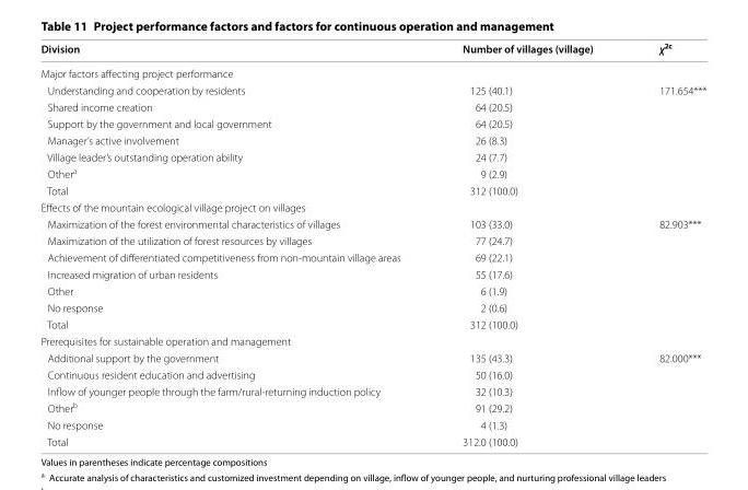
<table><thead><tr><td>Division</td><td>Number of villages (village)</td><td>χ<sup>2c</sup></td></tr></thead><tbody><tr><td colspan="3">Major factors affecting project performance</td></tr><tr><td>Understanding and cooperation by residents</td><td>125 (40.1)</td><td rowspan="6">171.654***</td></tr><tr><td>Shared income creation</td><td>64 (20.5)</td></tr><tr><td>Support by the government and local government</td><td>64 (20.5)</td></tr><tr><td>Manager’s active involvement</td><td>26 (8.3)</td></tr><tr><td>Village leader’s outstanding operation ability</td><td>24 (7.7)</td></tr><tr><td>Other<sup>a</sup></td><td>9 (2.9)</td></tr><tr><td>Total</td><td>312 (100.0)</td><td></td></tr><tr><td colspan="3">Effects of the mountain ecological village project on villages</td></tr><tr><td>Maximization of the forest environmental characteristics of villages</td><td>103 (33.0)</td><td rowspan="5">82.903***</td></tr><tr><td>Maximization of the utilization of forest resources by villages</td><td>77 (24.7)</td></tr><tr><td>Achievement of differentiated competitiveness from non-mountain village areas</td><td>69 (22.1)</td></tr><tr><td>Increased migration of urban residents</td><td>55 (17.6)</td></tr><tr><td>Other</td><td>6 (1.9)</td></tr><tr><td>No response</td><td>2 (0.6)</td><td></td></tr><tr><td>Total</td><td>312 (100.0)</td><td></td></tr><tr><td colspan="3">Prerequisites for sustainable operation and management</td></tr><tr><td>Additional support by the government</td><td>135 (43.3)</td><td rowspan="4">82.000***</td></tr><tr><td>Continuous resident education and advertising</td><td>50 (16.0)</td></tr><tr><td>Inflow of younger people through the farm/rural-returning induction policy</td><td>32 (10.3)</td></tr><tr><td>Other<sup>b</sup></td><td>91 (29.2)</td></tr><tr><td>No response</td><td>4 (1.3)</td><td></td></tr><tr><td>Total</td><td>312.0 (100.0)</td><td></td></tr></tbody></table>